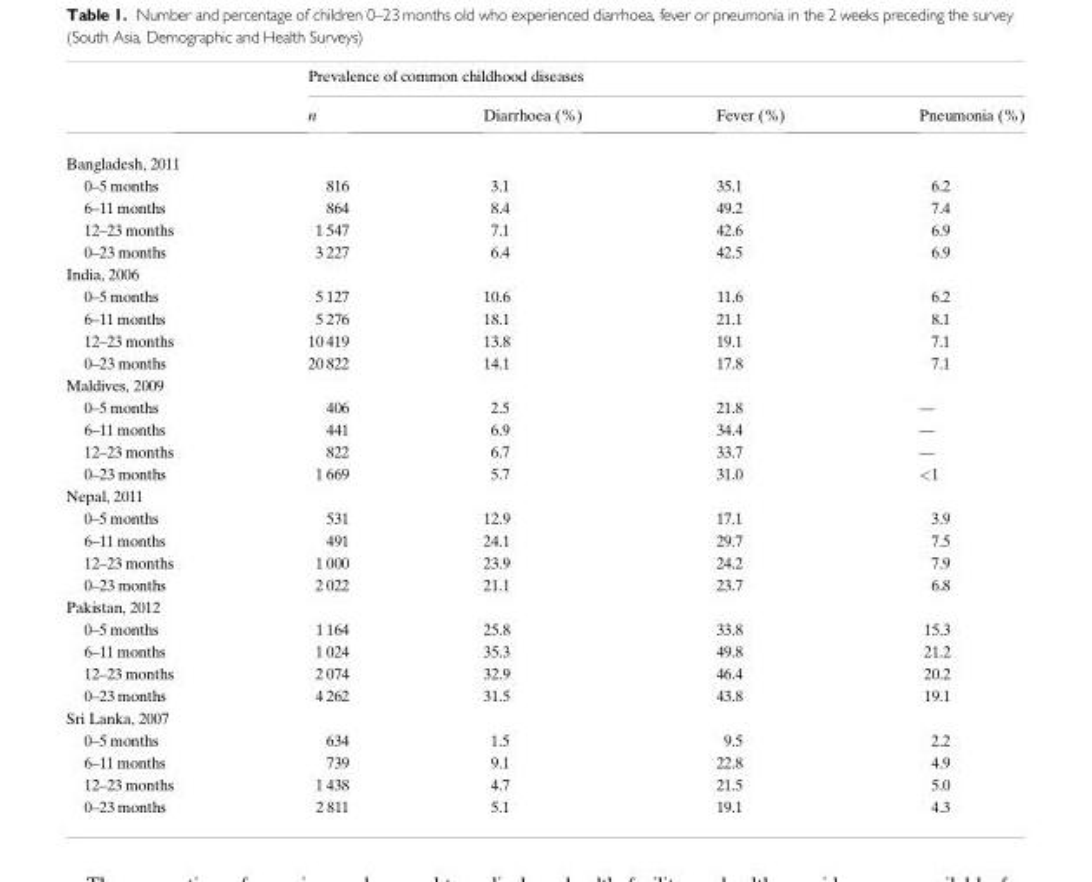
<table><thead><tr><td rowspan="2"></td><td colspan="4">Prevalence of common childhood diseases</td></tr><tr><td>n</td><td>Diarrhoea (%)</td><td>Fever (%)</td><td>Pneumonia (%)</td></tr></thead><tbody><tr><td colspan="5">Bangladesh, 2011</td></tr><tr><td>0–5 months</td><td>816</td><td>3.1</td><td>35.1</td><td>6.2</td></tr><tr><td>6–11 months</td><td>864</td><td>8.4</td><td>49.2</td><td>7.4</td></tr><tr><td>12–23 months</td><td>1 547</td><td>7.1</td><td>42.6</td><td>6.9</td></tr><tr><td>0–23 months</td><td>3 227</td><td>6.4</td><td>42.5</td><td>6.9</td></tr><tr><td colspan="5">India, 2006</td></tr><tr><td>0–5 months</td><td>5 127</td><td>10.6</td><td>11.6</td><td>6.2</td></tr><tr><td>6–11 months</td><td>5 276</td><td>18.1</td><td>21.1</td><td>8.1</td></tr><tr><td>12–23 months</td><td>10 419</td><td>13.8</td><td>19.1</td><td>7.1</td></tr><tr><td>0–23 months</td><td>20 822</td><td>14.1</td><td>17.8</td><td>7.1</td></tr><tr><td colspan="5">Maldives, 2009</td></tr><tr><td>0–5 months</td><td>406</td><td>2.5</td><td>21.8</td><td>—</td></tr><tr><td>6–11 months</td><td>441</td><td>6.9</td><td>34.4</td><td>—</td></tr><tr><td>12–23 months</td><td>822</td><td>6.7</td><td>33.7</td><td>—</td></tr><tr><td>0–23 months</td><td>1 669</td><td>5.7</td><td>31.0</td><td>&lt;1</td></tr><tr><td colspan="5">Nepal, 2011</td></tr><tr><td>0–5 months</td><td>531</td><td>12.9</td><td>17.1</td><td>3.9</td></tr><tr><td>6–11 months</td><td>491</td><td>24.1</td><td>29.7</td><td>7.5</td></tr><tr><td>12–23 months</td><td>1 000</td><td>23.9</td><td>24.2</td><td>7.9</td></tr><tr><td>0–23 months</td><td>2 022</td><td>21.1</td><td>23.7</td><td>6.8</td></tr><tr><td colspan="5">Pakistan, 2012</td></tr><tr><td>0–5 months</td><td>1 164</td><td>25.8</td><td>33.8</td><td>15.3</td></tr><tr><td>6–11 months</td><td>1 024</td><td>35.3</td><td>49.8</td><td>21.2</td></tr><tr><td>12–23 months</td><td>2 074</td><td>32.9</td><td>46.4</td><td>20.2</td></tr><tr><td>0–23 months</td><td>4 262</td><td>31.5</td><td>43.8</td><td>19.1</td></tr><tr><td colspan="5">Sri Lanka, 2007</td></tr><tr><td>0–5 months</td><td>634</td><td>1.5</td><td>9.5</td><td>2.2</td></tr><tr><td>6–11 months</td><td>739</td><td>9.1</td><td>22.8</td><td>4.9</td></tr><tr><td>12–23 months</td><td>1 438</td><td>4.7</td><td>21.5</td><td>5.0</td></tr><tr><td>0–23 months</td><td>2 811</td><td>5.1</td><td>19.1</td><td>4.3</td></tr></tbody></table>